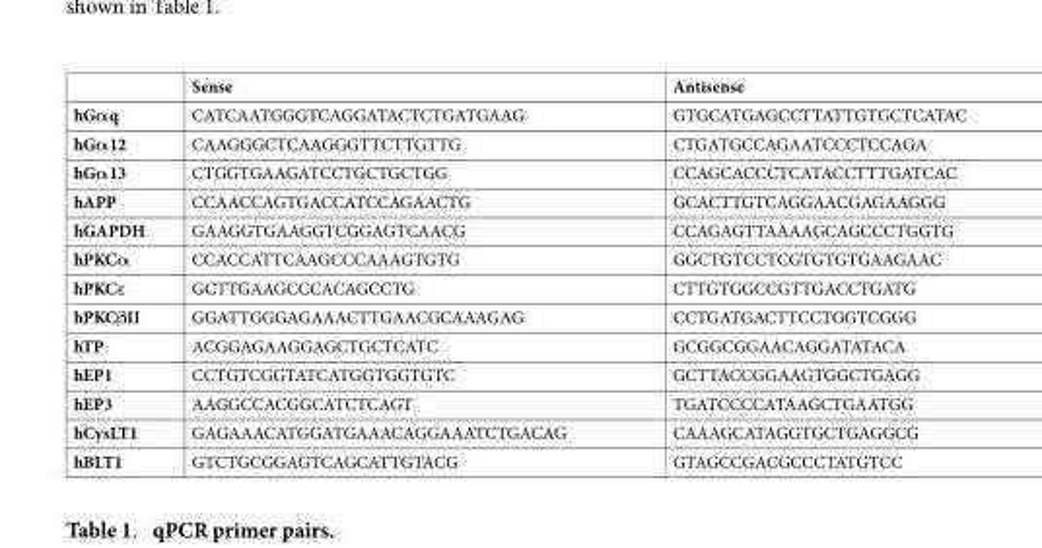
<table><thead><tr><td></td><td>Sense</td><td>Antisense</td></tr></thead><tbody><tr><td>hGαq</td><td>CATCAATGGGTCAGGATACTCTGATGAAG</td><td>GTGCATGAGCCTTATTGTGCTCATAC</td></tr><tr><td>hGα12</td><td>CAAGGGCTCAAGGGTTCTTGTTG</td><td>CTGATGCCAGAATCCCTCCAGA</td></tr><tr><td>hGα13</td><td>CTGGTGAAGATCCTGCTGCTGG</td><td>CCAGCACCCTCATACCTTTGATCAC</td></tr><tr><td>hAPP</td><td>CCAACCAGTGACCATCCAGAACTG</td><td>GCACTTGTCAGGAACGAGAAGGG</td></tr><tr><td>hGAPDH</td><td>GAAGGTGAAGGTCGGAGTCAACG</td><td>CCAGAGTTAAAAGCAGCCCTGGTG</td></tr><tr><td>hPKCα</td><td>CCACCATTCAAGCCCAAAGTGTG</td><td>GGCTGTCCTCGTGTGTGAAGAAC</td></tr><tr><td>hPKCε</td><td>GCTTGAAGCCCACAGCCTG</td><td>CTTGTGGCCGTTGACCTGATG</td></tr><tr><td>hPKCβII</td><td>GGATTGGGAGAAACTTGAACGCAAAGAG</td><td>CCTGATGACTTCCTGGTCGGG</td></tr><tr><td>hTP</td><td>ACGGAGAAGGAGCTGCTCATC</td><td>GCGGCGGAACAGGATATACA</td></tr><tr><td>hEP1</td><td>CCTGTCGGTATCATGGTGGTGTC</td><td>GCTTACCGGAAGTGGCTGAGG</td></tr><tr><td>hEP3</td><td>AAGGCCACGGCATCTCAGT</td><td>TGATCCCCATAAGCTGAATGG</td></tr><tr><td>hCysLT1</td><td>GAGAAACATGGATGAAACAGGAAATCTGACAG</td><td>CAAAGCATAGGTGCTGAGGCG</td></tr><tr><td>hBLT1</td><td>GTCTGCGGAGTCAGCATTGTACG</td><td>GTAGCCGACGCCCTATGTCC</td></tr></tbody></table>